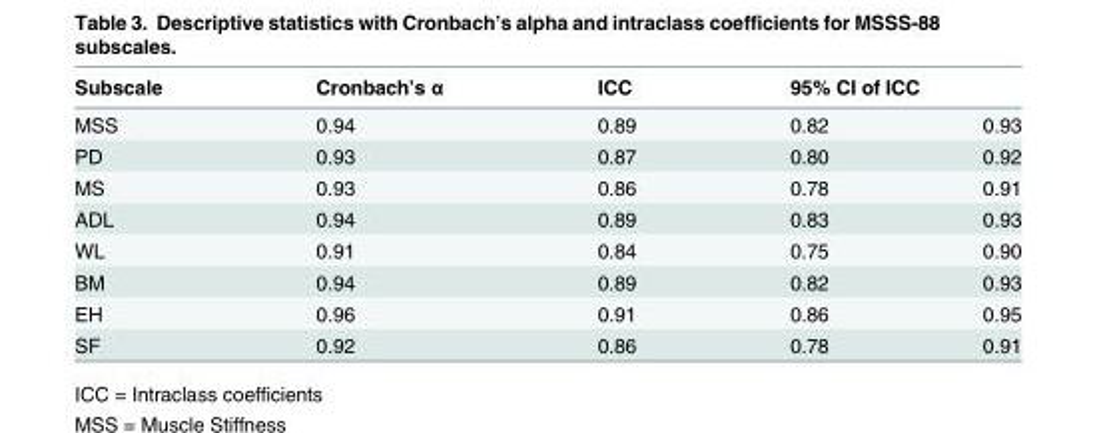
<table><thead><tr><td rowspan="2">Subscale MSS</td><td rowspan="2">Cronbach’s α 0.94</td><td rowspan="2">ICC 0.89</td><td colspan="2">95% CI of ICC</td></tr><tr><td>0.82</td><td>0.93</td></tr></thead><tbody><tr><td>PD</td><td>0.93</td><td>0.87</td><td>0.80</td><td>0.92</td></tr><tr><td>MS</td><td>0.93</td><td>0.86</td><td>0.78</td><td>0.91</td></tr><tr><td>ADL</td><td>0.94</td><td>0.89</td><td>0.83</td><td>0.93</td></tr><tr><td>WL</td><td>0.91</td><td>0.84</td><td>0.75</td><td>0.90</td></tr><tr><td>BM</td><td>0.94</td><td>0.89</td><td>0.82</td><td>0.93</td></tr><tr><td>EH</td><td>0.96</td><td>0.91</td><td>0.86</td><td>0.95</td></tr><tr><td>SF</td><td>0.92</td><td>0.86</td><td>0.78</td><td>0.91</td></tr></tbody></table>